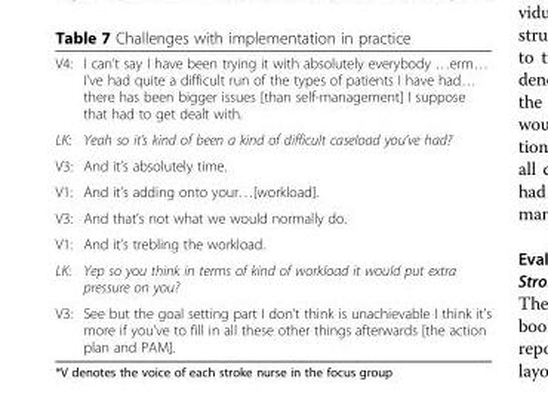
<table><tbody><tr><td>V4:</td><td>I can’t say I have been trying it with absolutely everybody …erm… I’ve had quite a difficult run of the types of patients I have had… there has been bigger issues [than self-management] I suppose that had to get dealt with.</td></tr><tr><td>LK:</td><td>Yeah so it’s kind of been a kind of difficult caseload you’ve had?</td></tr><tr><td>V3:</td><td>And it’s absolutely time.</td></tr><tr><td>V1:</td><td>And it’s adding onto your…[workload].</td></tr><tr><td>V3:</td><td>And that’s not what we would normally do.</td></tr><tr><td>V1:</td><td>And it’s trebling the workload.</td></tr><tr><td>LK:</td><td>Yep so you think in terms of kind of workload it would put extra pressure on you?</td></tr><tr><td>V3:</td><td>See but the goal setting part I don’t think is unachievable I think it’s more if you’ve to fill in all these other things afterwards [the action plan and PAM].</td></tr></tbody></table>